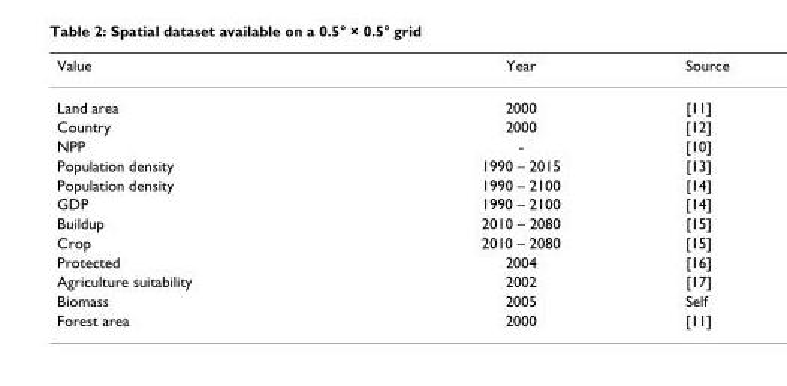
<table><thead><tr><td>Value</td><td>Year</td><td>Source</td></tr></thead><tbody><tr><td>Land area</td><td>2000</td><td>[11]</td></tr><tr><td>Country</td><td>2000</td><td>[12]</td></tr><tr><td>NPP</td><td>-</td><td>[10]</td></tr><tr><td>Population density</td><td>1990 – 2015</td><td>[13]</td></tr><tr><td>Population density</td><td>1990 – 2100</td><td>[14]</td></tr><tr><td>GDP</td><td>1990 – 2100</td><td>[14]</td></tr><tr><td>Buildup</td><td>2010 – 2080</td><td>[15]</td></tr><tr><td>Crop</td><td>2010 – 2080</td><td>[15]</td></tr><tr><td>Protected</td><td>2004</td><td>[16]</td></tr><tr><td>Agriculture suitability</td><td>2002</td><td>[17]</td></tr><tr><td>Biomass</td><td>2005</td><td>Self</td></tr><tr><td>Forest area</td><td>2000</td><td>[11]</td></tr></tbody></table>